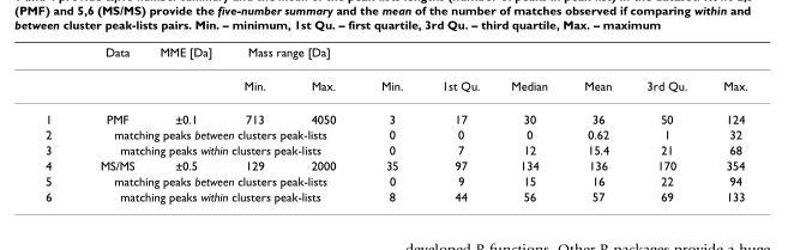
<table><thead><tr><td rowspan="2"></td><td rowspan="2">Data</td><td rowspan="2">MME [Da]</td><td colspan="2">Mass range [Da]</td><td rowspan="2">Min.</td><td rowspan="2">1st Qu.</td><td rowspan="2">Median</td><td rowspan="2">Mean</td><td rowspan="2">3rd Qu.</td><td rowspan="2">Max.</td></tr><tr><td>Min.</td><td>Max.</td></tr></thead><tbody><tr><td>1</td><td>PMF</td><td>±0.1</td><td>713</td><td>4050</td><td>3</td><td>17</td><td>30</td><td>36</td><td>50</td><td>124</td></tr><tr><td>2</td><td colspan="4">matching peaks between clusters peak-lists</td><td>0</td><td>0</td><td>0</td><td>0.62</td><td>1</td><td>32</td></tr><tr><td>3</td><td colspan="4">matching peaks within clusters peak-lists</td><td>0</td><td>7</td><td>12</td><td>15.4</td><td>21</td><td>68</td></tr><tr><td>4</td><td>MS/MS</td><td>±0.5</td><td>129</td><td>2000</td><td>35</td><td>97</td><td>134</td><td>136</td><td>170</td><td>354</td></tr><tr><td>5</td><td colspan="4">matching peaks between clusters peak-lists</td><td>0</td><td>9</td><td>15</td><td>16</td><td>22</td><td>94</td></tr><tr><td>6</td><td colspan="4">matching peaks within clusters peak-lists</td><td>8</td><td>44</td><td>56</td><td>57</td><td>69</td><td>133</td></tr></tbody></table>